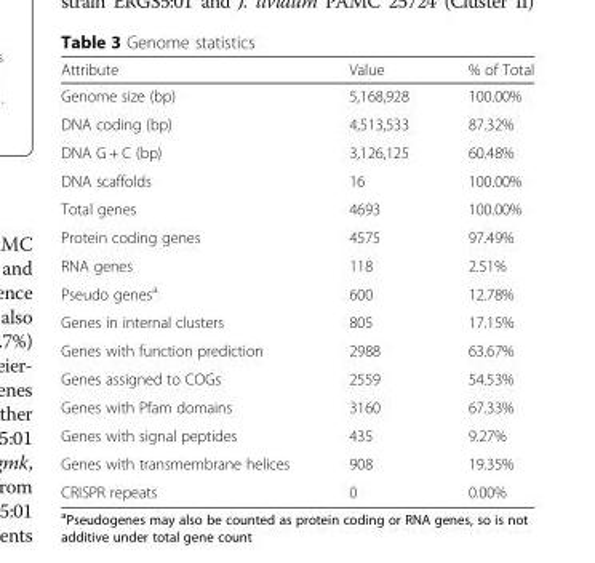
<table><thead><tr><td>Attribute</td><td>Value</td><td>% of Total</td></tr></thead><tbody><tr><td>Genome size (bp)</td><td>5,168,928</td><td>100.00%</td></tr><tr><td>DNA coding (bp)</td><td>4,513,533</td><td>87.32%</td></tr><tr><td>DNA G + C (bp)</td><td>3,126,125</td><td>60.48%</td></tr><tr><td>DNA scaffolds</td><td>16</td><td>100.00%</td></tr><tr><td>Total genes</td><td>4693</td><td>100.00%</td></tr><tr><td>Protein coding genes</td><td>4575</td><td>97.49%</td></tr><tr><td>RNA genes</td><td>118</td><td>2.51%</td></tr><tr><td>Pseudo genes<sup>a</sup></td><td>600</td><td>12.78%</td></tr><tr><td>Genes in internal clusters</td><td>805</td><td>17.15%</td></tr><tr><td>Genes with function prediction</td><td>2988</td><td>63.67%</td></tr><tr><td>Genes assigned to COGs</td><td>2559</td><td>54.53%</td></tr><tr><td>Genes with Pfam domains</td><td>3160</td><td>67.33%</td></tr><tr><td>Genes with signal peptides</td><td>435</td><td>9.27%</td></tr><tr><td>Genes with transmembrane helices</td><td>908</td><td>19.35%</td></tr><tr><td>CRISPR repeats</td><td>0</td><td>0.00%</td></tr></tbody></table>